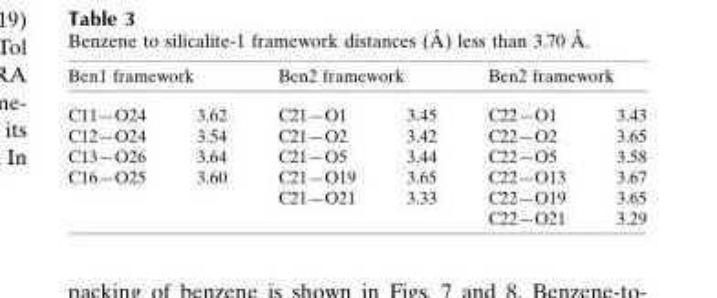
<table><thead><tr><td colspan="2">Ben1 framework</td><td colspan="2">Ben2 framework</td><td colspan="2">Ben2 framework</td></tr><tr><td>C11—O24</td><td>3.62</td><td>C21—O1</td><td>3.45</td><td>C22—O1</td><td>3.43</td></tr></thead><tbody><tr><td>C12—O24</td><td>3.54</td><td>C21—O2</td><td>3.42</td><td>C22—O2</td><td>3.65</td></tr><tr><td>C13—O26</td><td>3.64</td><td>C21—O5</td><td>3.44</td><td>C22—O5</td><td>3.58</td></tr><tr><td rowspan="3">C16—O25</td><td>3.60</td><td>C21—O19</td><td>3.65</td><td>C22—O13</td><td>3.67</td></tr><tr><td></td><td>C21—O21</td><td>3.33</td><td>C22—O19</td><td>3.65</td></tr><tr><td></td><td></td><td></td><td>C22—O21</td><td>3.29</td></tr></tbody></table>